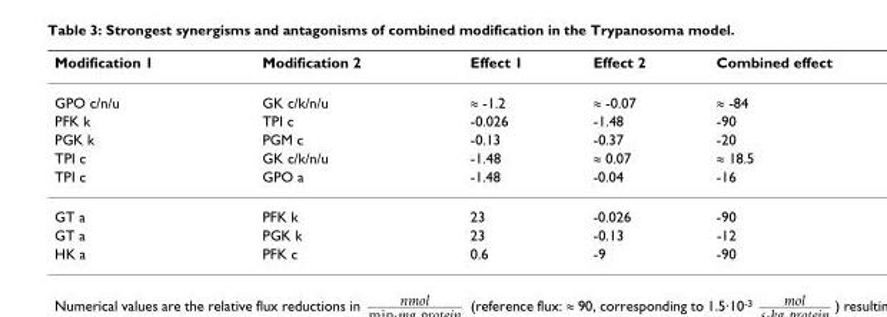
<table><thead><tr><td>Modification 1</td><td>Modification 2</td><td>Effect 1</td><td>Effect 2</td><td>Combined effect</td></tr></thead><tbody><tr><td>GPO c/n/u</td><td>GK c/k/n/u</td><td>≈ -1.2</td><td>≈ -0.07</td><td>≈ -84</td></tr><tr><td>PFK k</td><td>TPI c</td><td>-0.026</td><td>-1.48</td><td>-90</td></tr><tr><td>PGK k</td><td>PGM c</td><td>-0.13</td><td>-0.37</td><td>-20</td></tr><tr><td>TPI c</td><td>GK c/k/n/u</td><td>-1.48</td><td>≈ 0.07</td><td>≈ 18.5</td></tr><tr><td>TPI c</td><td>GPO a</td><td>-1.48</td><td>-0.04</td><td>-16</td></tr><tr><td>GT a</td><td>PFK k</td><td>23</td><td>-0.026</td><td>-90</td></tr><tr><td>GT a</td><td>PGK k</td><td>23</td><td>-0.13</td><td>-12</td></tr><tr><td>HK a</td><td>PFK c</td><td>0.6</td><td>-9</td><td>-90</td></tr></tbody></table>